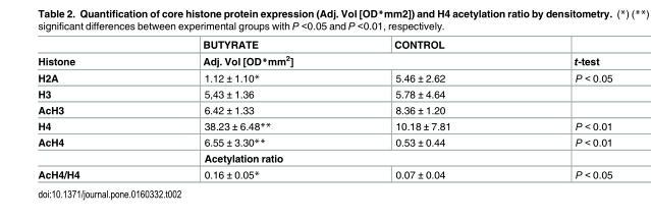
<table><thead><tr><td rowspan="2">Histone</td><td>BUTYRATE</td><td>CONTROL</td><td rowspan="2">t-test</td></tr><tr><td colspan="2">Adj. Vol [OD*mm<sup>2</sup>]</td></tr></thead><tbody><tr><td>H2A</td><td>1.12 ± 1.10*</td><td>5.46 ± 2.62</td><td>P &lt; 0.05</td></tr><tr><td>H3</td><td>5,43 ± 1.36</td><td>5.78 ± 4.64</td><td></td></tr><tr><td>AcH3</td><td>6.42 ± 1.33</td><td>8.36 ± 1.20</td><td></td></tr><tr><td>H4</td><td>38.23 ± 6.48**</td><td>10.18 ± 7.81</td><td>P &lt; 0.01</td></tr><tr><td rowspan="2">AcH4</td><td>6.55 ± 3.30**</td><td>0.53 ± 0.44</td><td>P &lt; 0.01</td></tr><tr><td colspan="2">Acetylation ratio</td><td></td></tr><tr><td>AcH4/H4</td><td>0.16 ± 0.05*</td><td>0.07 ± 0.04</td><td>P &lt; 0.05</td></tr></tbody></table>